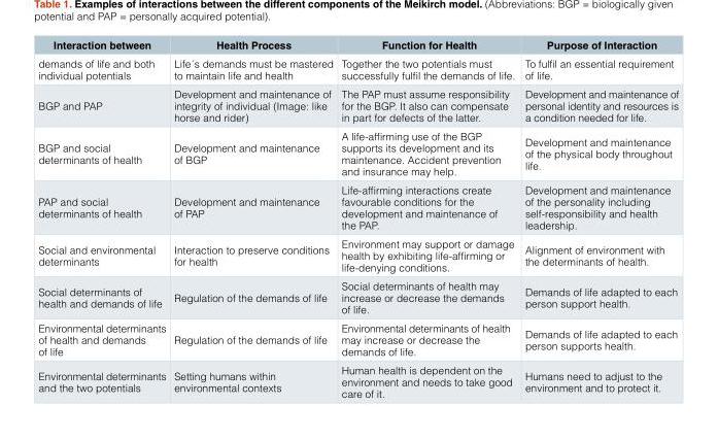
<table><thead><tr><td>Interaction between</td><td>Health Process</td><td>Function for Health</td><td>Purpose of Interaction</td></tr></thead><tbody><tr><td>demands of life and both individual potentials</td><td>Life´s demands must be mastered to maintain life and health</td><td>Together the two potentials must successfully fulfil the demands of life.</td><td>To fulfil an essential requirement of life.</td></tr><tr><td>BGP and PAP</td><td>Development and maintenance of integrity of individual (Image: like horse and rider)</td><td>The PAP must assume responsibility for the BGP. It also can compensate in part for defects of the latter.</td><td>Development and maintenance of personal identity and resources is a condition needed for life.</td></tr><tr><td>BGP and social determinants of health</td><td>Development and maintenance of BGP</td><td>A life-affirming use of the BGP supports its development and its maintenance. Accident prevention and insurance may help.</td><td>Development and maintenance of the physical body throughout life.</td></tr><tr><td>PAP and social determinants of health</td><td>Development and maintenance of PAP</td><td>Life-affirming interactions create favourable conditions for the development and maintenance of the PAP.</td><td>Development and maintenance of the personality including self-responsibility and health leadership.</td></tr><tr><td>Social and environmental determinants</td><td>Interaction to preserve conditions for health</td><td>Environment may support or damage health by exhibiting life-affirming or life-denying conditions.</td><td>Alignment of environment with the determinants of health.</td></tr><tr><td>Social determinants of health and demands of life</td><td>Regulation of the demands of life</td><td>Social determinants of health may increase or decrease the demands of life.</td><td>Demands of life adapted to each person support health.</td></tr><tr><td>Environmental determinants of health and demands of life</td><td>Regulation of the demands of life</td><td>Environmental determinants of health may increase or decrease the demands of life.</td><td>Demands of life adapted to each person supports health.</td></tr><tr><td>Environmental determinants and the two potentials</td><td>Setting humans within environmental contexts</td><td>Human health is dependent on the environment and needs to take good care of it.</td><td>Humans need to adjust to the environment and to protect it.</td></tr></tbody></table>